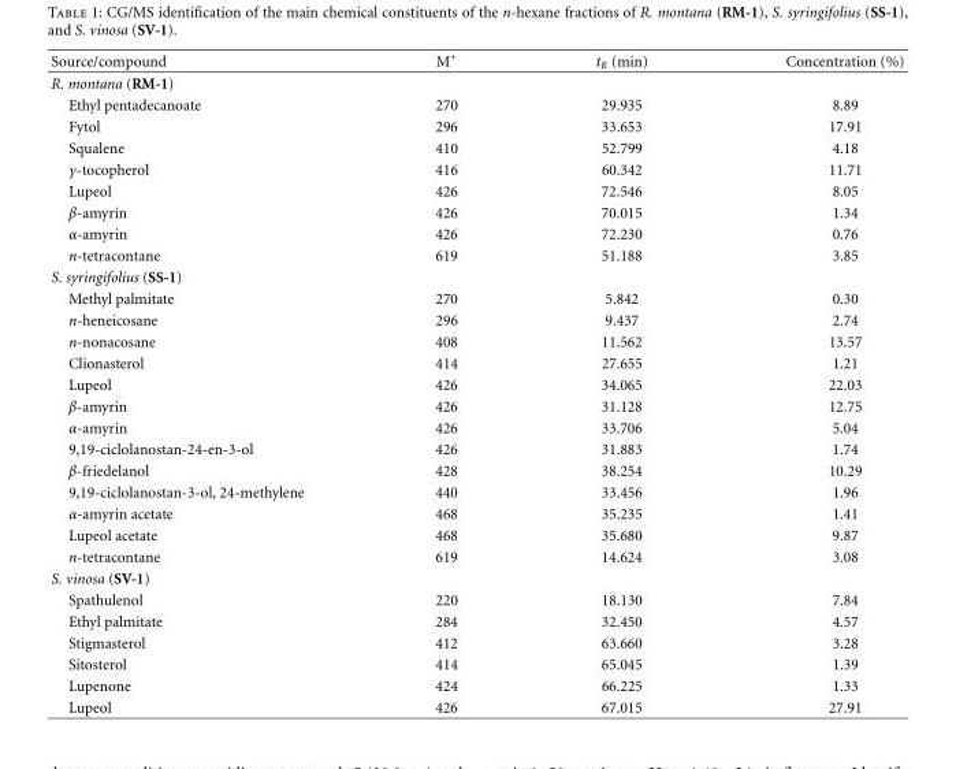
<table><thead><tr><td>Source/compound</td><td>M<sup>+</sup></td><td>t<sub>R</sub> (min)</td><td>Concentration (%)</td></tr></thead><tbody><tr><td colspan="4">R. montana (RM-1)</td></tr><tr><td>Ethyl pentadecanoate</td><td>270</td><td>29.935</td><td>8.89</td></tr><tr><td>Fytol</td><td>296</td><td>33.653</td><td>17.91</td></tr><tr><td>Squalene</td><td>410</td><td>52.799</td><td>4.18</td></tr><tr><td>γ-tocopherol</td><td>416</td><td>60.342</td><td>11.71</td></tr><tr><td>Lupeol</td><td>426</td><td>72.546</td><td>8.05</td></tr><tr><td>β-amyrin</td><td>426</td><td>70.015</td><td>1.34</td></tr><tr><td>α-amyrin</td><td>426</td><td>72.230</td><td>0.76</td></tr><tr><td>n-tetracontane</td><td>619</td><td>51.188</td><td>3.85</td></tr><tr><td colspan="4">S. syringifolius (SS-1)</td></tr><tr><td>Methyl palmitate</td><td>270</td><td>5.842</td><td>0.30</td></tr><tr><td>n-heneicosane</td><td>296</td><td>9.437</td><td>2.74</td></tr><tr><td>n-nonacosane</td><td>408</td><td>11.562</td><td>13.57</td></tr><tr><td>Clionasterol</td><td>414</td><td>27.655</td><td>1.21</td></tr><tr><td>Lupeol</td><td>426</td><td>34.065</td><td>22.03</td></tr><tr><td>β-amyrin</td><td>426</td><td>31.128</td><td>12.75</td></tr><tr><td>α-amyrin</td><td>426</td><td>33.706</td><td>5.04</td></tr><tr><td>9,19-ciclolanostan-24-en-3-ol</td><td>426</td><td>31.883</td><td>1.74</td></tr><tr><td>β-friedelanol</td><td>428</td><td>38.254</td><td>10.29</td></tr><tr><td>9,19-ciclolanostan-3-ol, 24-methylene</td><td>440</td><td>33.456</td><td>1.96</td></tr><tr><td>α-amyrin acetate</td><td>468</td><td>35.235</td><td>1.41</td></tr><tr><td>Lupeol acetate</td><td>468</td><td>35.680</td><td>9.87</td></tr><tr><td>n-tetracontane</td><td>619</td><td>14.624</td><td>3.08</td></tr><tr><td colspan="4">S. vinosa (SV-1)</td></tr><tr><td>Spathulenol</td><td>220</td><td>18.130</td><td>7.84</td></tr><tr><td>Ethyl palmitate</td><td>284</td><td>32.450</td><td>4.57</td></tr><tr><td>Stigmasterol</td><td>412</td><td>63.660</td><td>3.28</td></tr><tr><td>Sitosterol</td><td>414</td><td>65.045</td><td>1.39</td></tr><tr><td>Lupenone</td><td>424</td><td>66.225</td><td>1.33</td></tr><tr><td>Lupeol</td><td>426</td><td>67.015</td><td>27.91</td></tr></tbody></table>